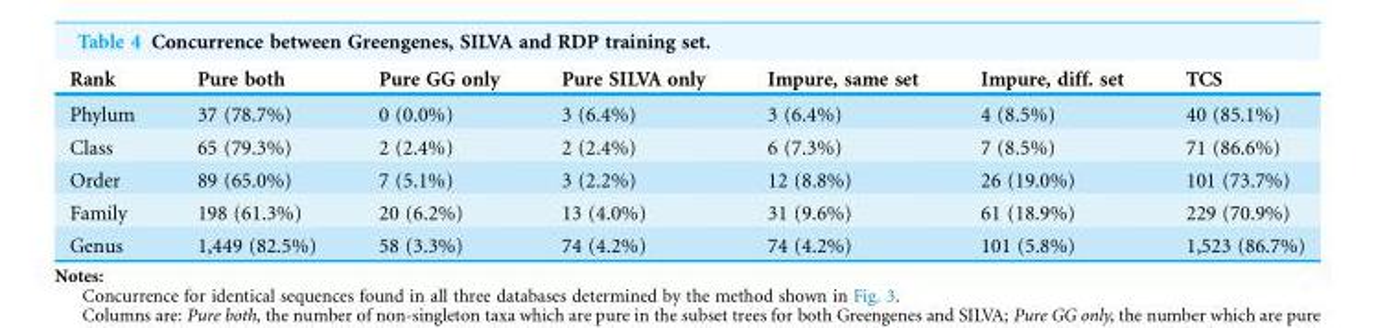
<table><thead><tr><td>Rank</td><td>Pure both</td><td>Pure GG only</td><td>Pure SILVA only</td><td>Impure, same set</td><td>Impure, diff. set</td><td>TCS</td></tr></thead><tbody><tr><td>Phylum</td><td>37 (78.7%)</td><td>0 (0.0%)</td><td>3 (6.4%)</td><td>3 (6.4%)</td><td>4 (8.5%)</td><td>40 (85.1%)</td></tr><tr><td>Class</td><td>65 (79.3%)</td><td>2 (2.4%)</td><td>2 (2.4%)</td><td>6 (7.3%)</td><td>7 (8.5%)</td><td>71 (86.6%)</td></tr><tr><td>Order</td><td>89 (65.0%)</td><td>7 (5.1%)</td><td>3 (2.2%)</td><td>12 (8.8%)</td><td>26 (19.0%)</td><td>101 (73.7%)</td></tr><tr><td>Family</td><td>198 (61.3%)</td><td>20 (6.2%)</td><td>13 (4.0%)</td><td>31 (9.6%)</td><td>61 (18.9%)</td><td>229 (70.9%)</td></tr><tr><td>Genus</td><td>1,449 (82.5%)</td><td>58 (3.3%)</td><td>74 (4.2%)</td><td>74 (4.2%)</td><td>101 (5.8%)</td><td>1,523 (86.7%)</td></tr></tbody></table>